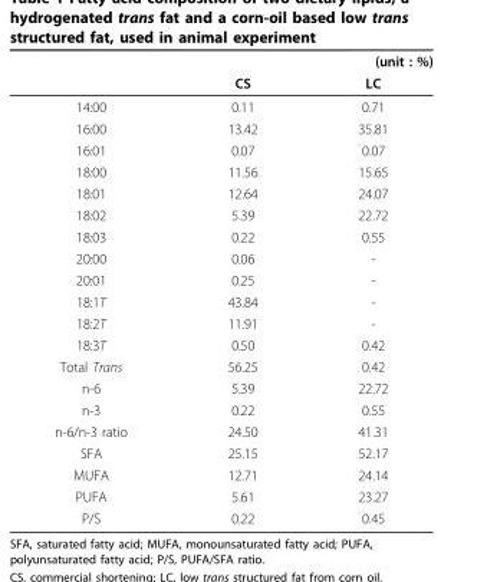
<table><thead><tr><td colspan="3">(unit : %)</td></tr><tr><td></td><td>CS</td><td>LC</td></tr></thead><tbody><tr><td>14:00</td><td>0.11</td><td>0.71</td></tr><tr><td>16:00</td><td>13.42</td><td>35.81</td></tr><tr><td>16:01</td><td>0.07</td><td>0.07</td></tr><tr><td>18:00</td><td>11.56</td><td>15.65</td></tr><tr><td>18:01</td><td>12.64</td><td>24.07</td></tr><tr><td>18:02</td><td>5.39</td><td>22.72</td></tr><tr><td>18:03</td><td>0.22</td><td>0.55</td></tr><tr><td>20:00</td><td>0.06</td><td>-</td></tr><tr><td>20:01</td><td>0.25</td><td>-</td></tr><tr><td>18:1T</td><td>43.84</td><td>-</td></tr><tr><td>18:2T</td><td>11.91</td><td>-</td></tr><tr><td>18:3T</td><td>0.50</td><td>0.42</td></tr><tr><td>Total Trans</td><td>56.25</td><td>0.42</td></tr><tr><td>n-6</td><td>5.39</td><td>22.72</td></tr><tr><td>n-3</td><td>0.22</td><td>0.55</td></tr><tr><td>n-6/n-3 ratio</td><td>24.50</td><td>41.31</td></tr><tr><td>SFA</td><td>25.15</td><td>52.17</td></tr><tr><td>MUFA</td><td>12.71</td><td>24.14</td></tr><tr><td>PUFA</td><td>5.61</td><td>23.27</td></tr><tr><td>P/S</td><td>0.22</td><td>0.45</td></tr></tbody></table>